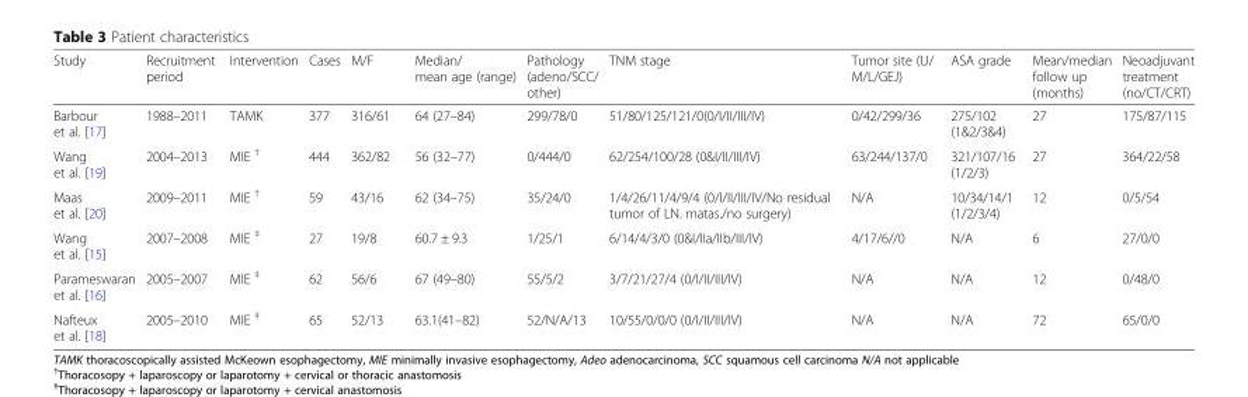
<table><thead><tr><td>Study</td><td>Recruitment period</td><td>Intervention</td><td>Cases</td><td>M/F</td><td>Median/ mean age (range)</td><td>Pathology (adeno/SCC/ other)</td><td>TNM stage</td><td>Tumor site (U/ M/L/GEJ)</td><td>ASA grade</td><td>Mean/median follow up (months)</td><td>Neoadjuvant treatment (no/CT/CRT)</td></tr></thead><tbody><tr><td>Barbour et al. [17]</td><td>1988–2011</td><td>TAMK</td><td>377</td><td>316/61</td><td>64 (27–84)</td><td>299/78/0</td><td>51/80/125/121/0(0/I/II/III/IV)</td><td>0/42/299/36</td><td>275/102 (1&amp;2/3&amp;4)</td><td>27</td><td>175/87/115</td></tr><tr><td>Wang et al. [19]</td><td>2004–2013</td><td>MIE <sup>†</sup></td><td>444</td><td>362/82</td><td>56 (32–77)</td><td>0/444/0</td><td>62/254/100/28 (0&amp;I/II/III/IV)</td><td>63/244/137/0</td><td>321/107/16 (1/2/3)</td><td>27</td><td>364/22/58</td></tr><tr><td>Maas et al. [20]</td><td>2009–2011</td><td>MIE <sup>†</sup></td><td>59</td><td>43/16</td><td>62 (34–75)</td><td>35/24/0</td><td>1/4/26/11/4/9/4 (0/I/II/III/IV/No residual tumor of LN. matas./no surgery)</td><td>N/A</td><td>10/34/14/1 (1/2/3/4)</td><td>12</td><td>0/5/54</td></tr><tr><td>Wang et al. [15]</td><td>2007–2008</td><td>MIE <sup>‡</sup></td><td>27</td><td>19/8</td><td>60.7 ± 9.3</td><td>1/25/1</td><td>6/14/4/3/0 (0&amp;I/IIa/IIb/III/IV)</td><td>4/17/6//0</td><td>N/A</td><td>6</td><td>27/0/0</td></tr><tr><td>Parameswaran et al. [16]</td><td>2005–2007</td><td>MIE <sup>‡</sup></td><td>62</td><td>56/6</td><td>67 (49–80)</td><td>55/5/2</td><td>3/7/21/27/4 (0/I/II/III/IV)</td><td>N/A</td><td>N/A</td><td>12</td><td>0/48/0</td></tr><tr><td>Nafteux et al. [18]</td><td>2005–2010</td><td>MIE <sup>‡</sup></td><td>65</td><td>52/13</td><td>63.1(41–82)</td><td>52/N/A/13</td><td>10/55/0/0/0 (0/I/II/III/IV)</td><td>N/A</td><td>N/A</td><td>72</td><td>65/0/0</td></tr></tbody></table>